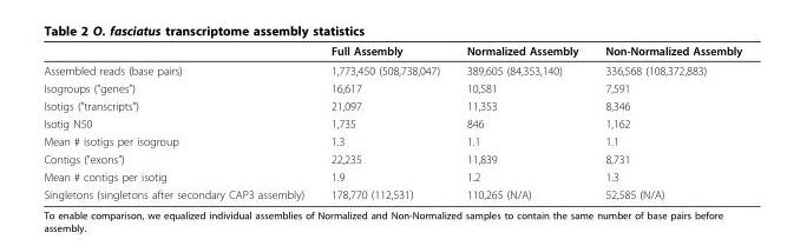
<table><thead><tr><td></td><td>Full Assembly</td><td>Normalized Assembly</td><td>Non-Normalized Assembly</td></tr></thead><tbody><tr><td>Assembled reads (base pairs)</td><td>1,773,450 (508,738,047)</td><td>389,605 (84,353,140)</td><td>336,568 (108,372,883)</td></tr><tr><td>Isogroups (&quot;genes”)</td><td>16,617</td><td>10,581</td><td>7,591</td></tr><tr><td>Isotigs (&quot;transcripts”)</td><td>21,097</td><td>11,353</td><td>8,346</td></tr><tr><td>Isotig N50</td><td>1,735</td><td>846</td><td>1,162</td></tr><tr><td>Mean # isotigs per isogroup</td><td>1.3</td><td>1.1</td><td>1.1</td></tr><tr><td>Contigs (&quot;exons”)</td><td>22,235</td><td>11,839</td><td>8,731</td></tr><tr><td>Mean # contigs per isotig</td><td>1.9</td><td>1.2</td><td>1.3</td></tr><tr><td>Singletons (singletons after secondary CAP3 assembly)</td><td>178,770 (112,531)</td><td>110,265 (N/A)</td><td>52,585 (N/A)</td></tr></tbody></table>